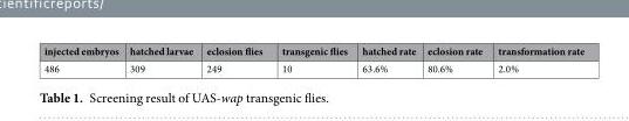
<table><thead><tr><td>injected embryos</td><td>hatched larvae</td><td>eclosion flies</td><td>transgenic flies</td><td>hatched rate</td><td>eclosion rate</td><td>transformation rate</td></tr></thead><tbody><tr><td>486</td><td>309</td><td>249</td><td>10</td><td>63.6%</td><td>80.6%</td><td>2.0%</td></tr></tbody></table>